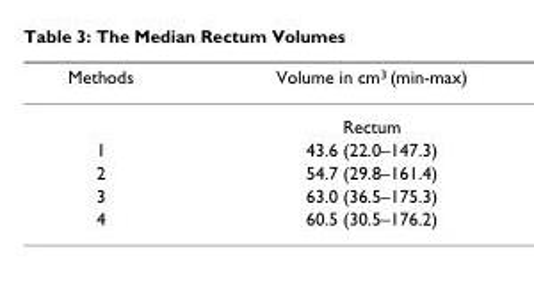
<table><thead><tr><td>Methods</td><td>Volume in cm<sup>3</sup> (min-max)</td></tr></thead><tbody><tr><td></td><td>Rectum</td></tr><tr><td>1</td><td>43.6 (22.0–147.3)</td></tr><tr><td>2</td><td>54.7 (29.8–161.4)</td></tr><tr><td>3</td><td>63.0 (36.5–175.3)</td></tr><tr><td>4</td><td>60.5 (30.5–176.2)</td></tr></tbody></table>